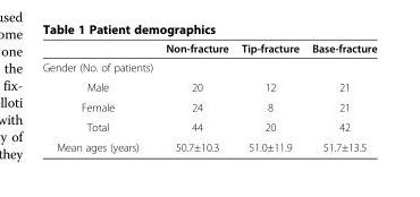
<table><thead><tr><td></td><td>Non-fracture</td><td>Tip-fracture</td><td>Base-fracture</td></tr></thead><tbody><tr><td colspan="4">Gender (No. of patients)</td></tr><tr><td>Male</td><td>20</td><td>12</td><td>21</td></tr><tr><td>Female</td><td>24</td><td>8</td><td>21</td></tr><tr><td>Total</td><td>44</td><td>20</td><td>42</td></tr><tr><td>Mean ages (years)</td><td>50.7±10.3</td><td>51.0±11.9</td><td>51.7±13.5</td></tr></tbody></table>